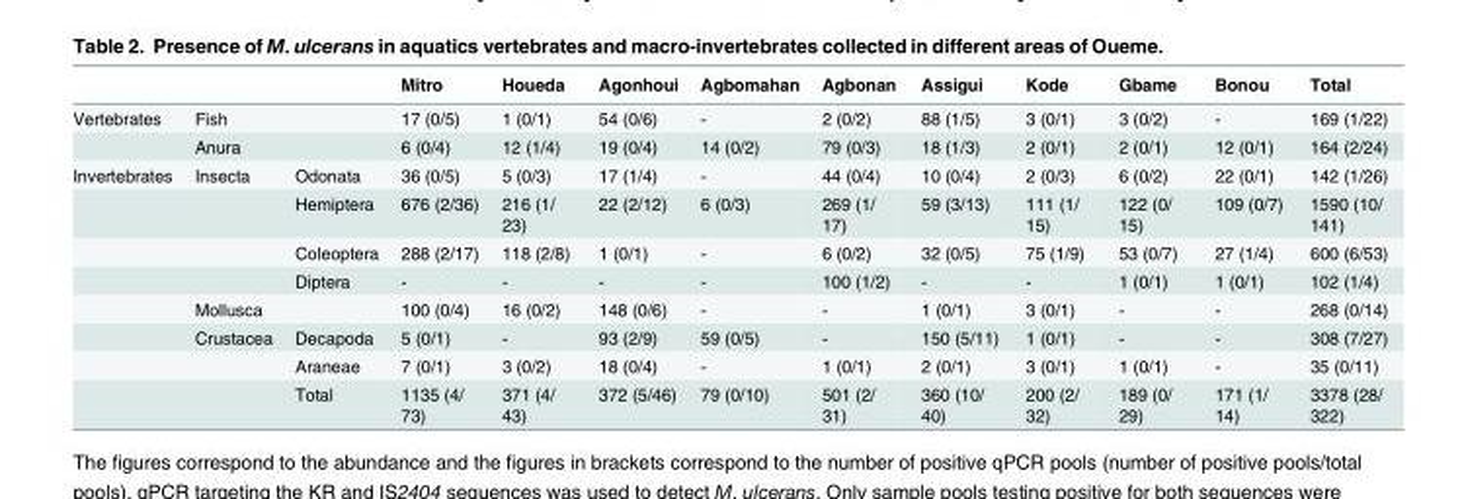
<table><thead><tr><td></td><td></td><td></td><td>Mitro</td><td>Houeda</td><td>Agonhoui</td><td>Agbomahan</td><td>Agbonan</td><td>Assigui</td><td>Kode</td><td>Gbame</td><td>Bonou</td><td>Total</td></tr></thead><tbody><tr><td rowspan="2">Vertebrates</td><td>Fish</td><td></td><td>17 (0/5)</td><td>1 (0/1)</td><td>54 (0/6)</td><td>-</td><td>2 (0/2)</td><td>88 (1/5)</td><td>3 (0/1)</td><td>3 (0/2)</td><td>-</td><td>169 (1/22)</td></tr><tr><td>Anura</td><td></td><td>6 (0/4)</td><td>12 (1/4)</td><td>19 (0/4)</td><td>14 (0/2)</td><td>79 (0/3)</td><td>18 (1/3)</td><td>2 (0/1)</td><td>2 (0/1)</td><td>12 (0/1)</td><td>164 (2/24)</td></tr><tr><td rowspan="8">Invertebrates</td><td>Insecta</td><td>Odonata</td><td>36 (0/5)</td><td>5 (0/3)</td><td>17 (1/4)</td><td>-</td><td>44 (0/4)</td><td>10 (0/4)</td><td>2 (0/3)</td><td>6 (0/2)</td><td>22 (0/1)</td><td>142 (1/26)</td></tr><tr><td></td><td>Hemiptera</td><td>676 (2/36)</td><td>216 (1/ 23)</td><td>22 (2/12)</td><td>6 (0/3)</td><td>269 (1/ 17)</td><td>59 (3/13)</td><td>111 (1/ 15)</td><td>122 (0/ 15)</td><td>109 (0/7)</td><td>1590 (10/ 141)</td></tr><tr><td></td><td>Coleoptera</td><td>288 (2/17)</td><td>118 (2/8)</td><td>1 (0/1)</td><td>-</td><td>6 (0/2)</td><td>32 (0/5)</td><td>75 (1/9)</td><td>53 (0/7)</td><td>27 (1/4)</td><td>600 (6/53)</td></tr><tr><td></td><td>Diptera</td><td>-</td><td>-</td><td>-</td><td>-</td><td>100 (1/2)</td><td>-</td><td>-</td><td>1 (0/1)</td><td>1 (0/1)</td><td>102 (1/4)</td></tr><tr><td>Mollusca</td><td></td><td>100 (0/4)</td><td>16 (0/2)</td><td>148 (0/6)</td><td>-</td><td>-</td><td>1 (0/1)</td><td>3 (0/1)</td><td>-</td><td>-</td><td>268 (0/14)</td></tr><tr><td>Crustacea</td><td>Decapoda</td><td>5 (0/1)</td><td>-</td><td>93 (2/9)</td><td>59 (0/5)</td><td>-</td><td>150 (5/11)</td><td>1 (0/1)</td><td>-</td><td>-</td><td>308 (7/27)</td></tr><tr><td></td><td>Araneae</td><td>7 (0/1)</td><td>3 (0/2)</td><td>18 (0/4)</td><td>-</td><td>1 (0/1)</td><td>2 (0/1)</td><td>3 (0/1)</td><td>1 (0/1)</td><td>-</td><td>35 (0/11)</td></tr><tr><td></td><td>Total</td><td>1135 (4/ 73)</td><td>371 (4/ 43)</td><td>372 (5/46)</td><td>79 (0/10)</td><td>501 (2/ 31)</td><td>360 (10/ 40)</td><td>200 (2/ 32)</td><td>189 (0/ 29)</td><td>171 (1/ 14)</td><td>3378 (28/ 322)</td></tr></tbody></table>